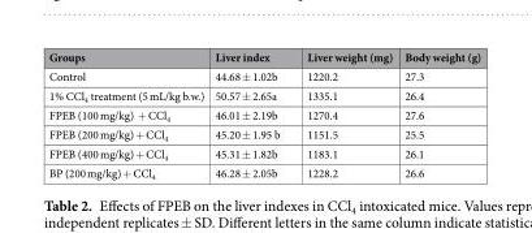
<table><thead><tr><td>Groups</td><td>Liver index</td><td>Liver weight (mg)</td><td>Body weight (g)</td></tr></thead><tbody><tr><td>Control</td><td>44.68 ± 1.02b</td><td>1220.2</td><td>27.3</td></tr><tr><td>1% CCl<sub>4</sub> treatment (5 mL/kg b.w.)</td><td>50.57 ± 2.65a</td><td>1335.1</td><td>26.4</td></tr><tr><td>FPEB (100 mg/kg) + CCl<sub>4</sub></td><td>46.01 ± 2.19b</td><td>1270.4</td><td>27.6</td></tr><tr><td>FPEB (200 mg/kg) + CCl<sub>4</sub></td><td>45.20 ± 1.95 b</td><td>1151.5</td><td>25.5</td></tr><tr><td>FPEB (400 mg/kg) + CCl<sub>4</sub></td><td>45.31 ± 1.82b</td><td>1183.1</td><td>26.1</td></tr><tr><td>BP (200 mg/kg) + CCl<sub>4</sub></td><td>46.28 ± 2.05b</td><td>1228.2</td><td>26.6</td></tr></tbody></table>